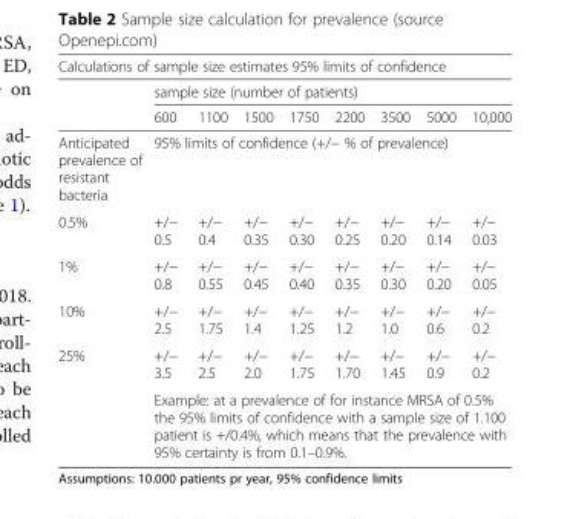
<table><thead><tr><td colspan="9">Calculations of sample size estimates 95% limits of confidence</td></tr><tr><td rowspan="2"></td><td colspan="8">sample size (number of patients)</td></tr><tr><td>600</td><td>1100</td><td>1500</td><td>1750</td><td>2200</td><td>3500</td><td>5000</td><td>10,000</td></tr></thead><tbody><tr><td>Anticipated prevalence of resistant bacteria</td><td colspan="8">95% limits of confidence (+/− % of prevalence)</td></tr><tr><td>0.5%</td><td>+/− 0.5</td><td>+/− 0.4</td><td>+/− 0.35</td><td>+/− 0.30</td><td>+/− 0.25</td><td>+/− 0.20</td><td>+/− 0.14</td><td>+/− 0.03</td></tr><tr><td>1%</td><td>+/− 0.8</td><td>+/− 0.55</td><td>+/− 0.45</td><td>+/− 0.40</td><td>+/− 0.35</td><td>+/− 0.30</td><td>+/− 0.20</td><td>+/− 0.05</td></tr><tr><td>10%</td><td>+/− 2.5</td><td>+/− 1.75</td><td>+/− 1.4</td><td>+/− 1.25</td><td>+/− 1.2</td><td>+/− 1.0</td><td>+/− 0.6</td><td>+/− 0.2</td></tr><tr><td rowspan="2">25%</td><td>+/− 3.5</td><td>+/− 2.5</td><td>+/− 2.0</td><td>+/− 1.75</td><td>+/− 1.70</td><td>+/− 1.45</td><td>+/− 0.9</td><td>+/− 0.2</td></tr><tr><td colspan="8">Example: at a prevalence of for instance MRSA of 0.5% the 95% limits of confidence with a sample size of 1.100 patient is +/0.4%, which means that the prevalence with 95% certainty is from 0.1–0.9%.</td></tr></tbody></table>